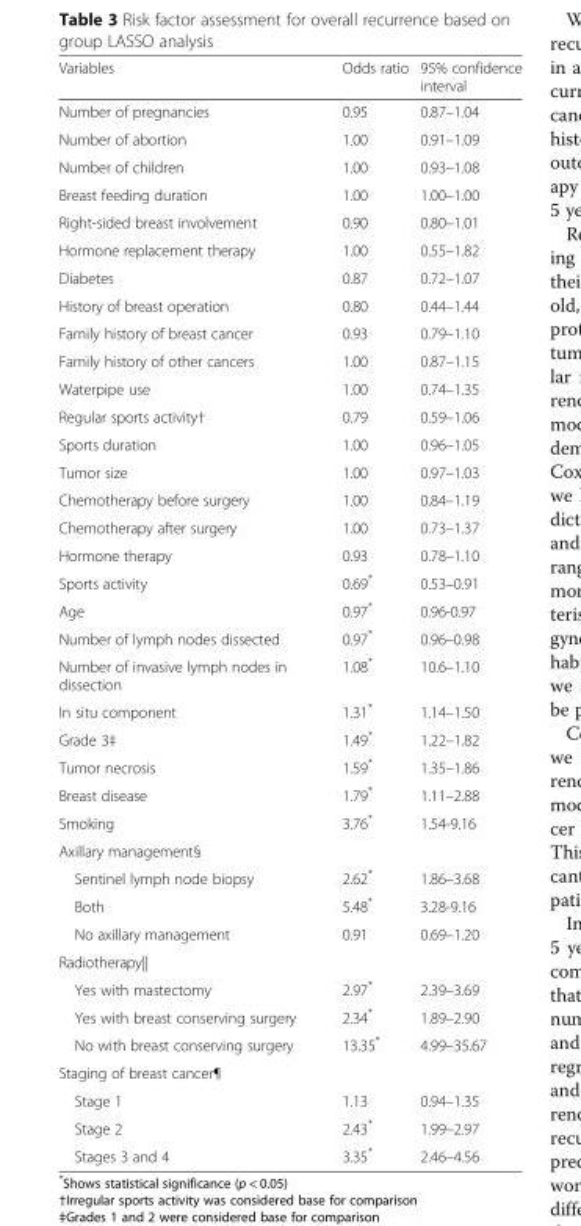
<table><thead><tr><td>Variables</td><td>Odds ratio</td><td>95% confidence interval</td></tr></thead><tbody><tr><td>Number of pregnancies</td><td>0.95</td><td>0.87–1.04</td></tr><tr><td>Number of abortion</td><td>1.00</td><td>0.91–1.09</td></tr><tr><td>Number of children</td><td>1.00</td><td>0.93–1.08</td></tr><tr><td>Breast feeding duration</td><td>1.00</td><td>1.00–1.00</td></tr><tr><td>Right-sided breast involvement</td><td>0.90</td><td>0.80–1.01</td></tr><tr><td>Hormone replacement therapy</td><td>1.00</td><td>0.55–1.82</td></tr><tr><td>Diabetes</td><td>0.87</td><td>0.72–1.07</td></tr><tr><td>History of breast operation</td><td>0.80</td><td>0.44–1.44</td></tr><tr><td>Family history of breast cancer</td><td>0.93</td><td>0.79–1.10</td></tr><tr><td>Family history of other cancers</td><td>1.00</td><td>0.87–1.15</td></tr><tr><td>Waterpipe use</td><td>1.00</td><td>0.74–1.35</td></tr><tr><td>Regular sports activity†</td><td>0.79</td><td>0.59–1.06</td></tr><tr><td>Sports duration</td><td>1.00</td><td>0.96–1.05</td></tr><tr><td>Tumor size</td><td>1.00</td><td>0.97–1.03</td></tr><tr><td>Chemotherapy before surgery</td><td>1.00</td><td>0.84–1.19</td></tr><tr><td>Chemotherapy after surgery</td><td>1.00</td><td>0.73–1.37</td></tr><tr><td>Hormone therapy</td><td>0.93</td><td>0.78–1.10</td></tr><tr><td>Sports activity</td><td>0.69*</td><td>0.53–0.91</td></tr><tr><td>Age</td><td>0.97*</td><td>0.96-0.97</td></tr><tr><td>Number of lymph nodes dissected</td><td>0.97*</td><td>0.96–0.98</td></tr><tr><td>Number of invasive lymph nodes in dissection</td><td>1.08*</td><td>10.6–1.10</td></tr><tr><td>In situ component</td><td>1.31*</td><td>1.14–1.50</td></tr><tr><td>Grade 3‡</td><td>1.49*</td><td>1.22–1.82</td></tr><tr><td>Tumor necrosis</td><td>1.59*</td><td>1.35–1.86</td></tr><tr><td>Breast disease</td><td>1.79*</td><td>1.11–2.88</td></tr><tr><td>Smoking</td><td>3.76*</td><td>1.54-9.16</td></tr><tr><td colspan="3">Axillary management§</td></tr><tr><td>Sentinel lymph node biopsy</td><td>2.62*</td><td>1.86–3.68</td></tr><tr><td>Both</td><td>5.48*</td><td>3.28-9.16</td></tr><tr><td>No axillary management</td><td>0.91</td><td>0.69–1.20</td></tr><tr><td colspan="3">Radiotherapy||</td></tr><tr><td>Yes with mastectomy</td><td>2.97*</td><td>2.39–3.69</td></tr><tr><td>Yes with breast conserving surgery</td><td>2.34*</td><td>1.89–2.90</td></tr><tr><td>No with breast conserving surgery</td><td>13.35*</td><td>4.99–35.67</td></tr><tr><td colspan="3">Staging of breast cancer¶</td></tr><tr><td>Stage 1</td><td>1.13</td><td>0.94–1.35</td></tr><tr><td>Stage 2</td><td>2.43*</td><td>1.99–2.97</td></tr><tr><td>Stages 3 and 4</td><td>3.35*</td><td>2.46–4.56</td></tr></tbody></table>